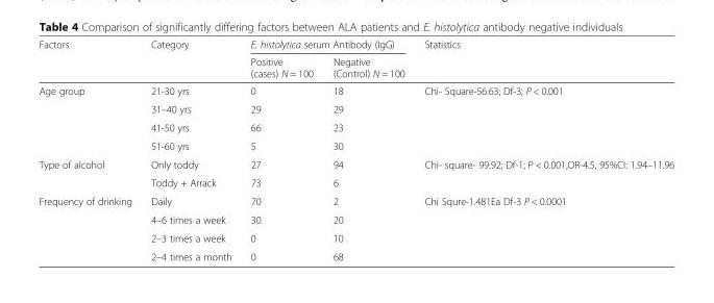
<table><thead><tr><td rowspan="2">Factors</td><td rowspan="2">Category</td><td colspan="2">E. histolytica serum Antibody (IgG)</td><td rowspan="2">Statistics</td></tr><tr><td>Positive (cases) N = 100</td><td>Negative (Control) N = 100</td></tr></thead><tbody><tr><td rowspan="4">Age group</td><td>21-30 yrs</td><td>0</td><td>18</td><td rowspan="4">Chi- Square-56.63; Df-3; P &lt; 0.001</td></tr><tr><td>31–40 yrs</td><td>29</td><td>29</td></tr><tr><td>41-50 yrs</td><td>66</td><td>23</td></tr><tr><td>51-60 yrs</td><td>5</td><td>30</td></tr><tr><td rowspan="2">Type of alcohol</td><td>Only toddy</td><td>27</td><td>94</td><td rowspan="2">Chi- square- 99.92; Df-1; P &lt; 0.001,OR-4.5, 95%CI: 1.94–11.96</td></tr><tr><td>Toddy + Arrack</td><td>73</td><td>6</td></tr><tr><td rowspan="4">Frequency of drinking</td><td>Daily</td><td>70</td><td>2</td><td rowspan="4">Chi Squre-1.481Ea Df-3 P &lt; 0.0001</td></tr><tr><td>4–6 times a week</td><td>30</td><td>20</td></tr><tr><td>2–3 times a week</td><td>0</td><td>10</td></tr><tr><td>2–4 times a month</td><td>0</td><td>68</td></tr></tbody></table>